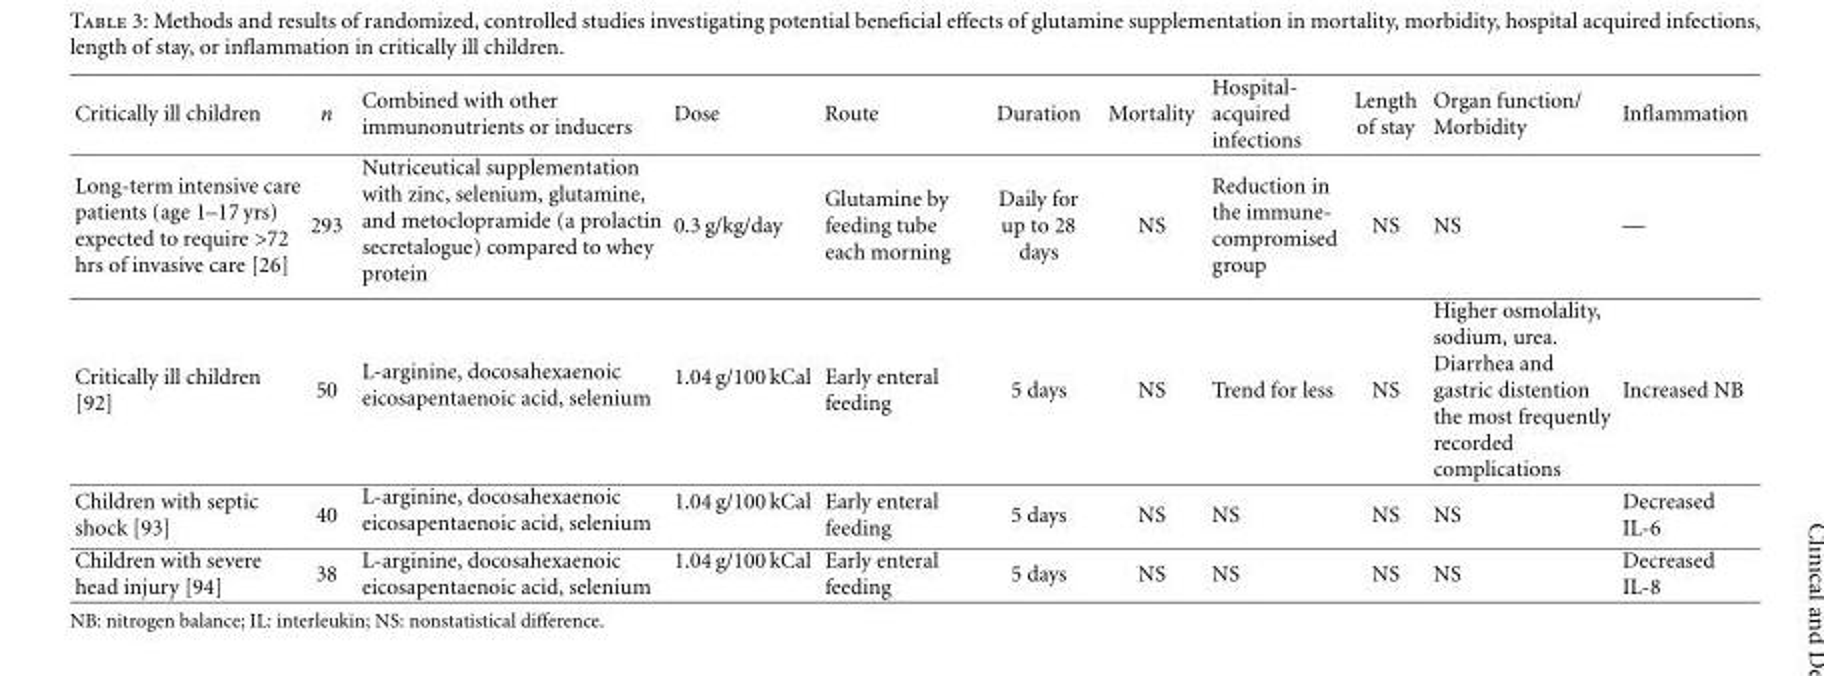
<table><thead><tr><td>Critically ill children</td><td>n</td><td>Combined with other immunonutrients or inducers</td><td>Dose</td><td>Route</td><td>Duration</td><td>Mortality</td><td>Hospital- acquired infections</td><td>Length of stay</td><td>Organ function/ Morbidity</td><td>Inflammation</td></tr></thead><tbody><tr><td>Long-term intensive care patients (age 1–17 yrs) expected to require &gt;72 hrs of invasive care [26]</td><td>293</td><td>Nutriceutical supplementation with zinc, selenium, glutamine, and metoclopramide (a prolactin secretalogue) compared to whey protein</td><td>0.3 g/kg/day</td><td>Glutamine by feeding tube each morning</td><td>Daily for up to 28 days</td><td>NS</td><td>Reduction in the immune- compromised group</td><td>NS</td><td>NS</td><td>—</td></tr><tr><td>Critically ill children [92]</td><td>50</td><td>L-arginine, docosahexaenoic eicosapentaenoic acid, selenium</td><td>1.04 g/100 kCal</td><td>Early enteral feeding</td><td>5 days</td><td>NS</td><td>Trend for less</td><td>NS</td><td>Higher osmolality, sodium, urea. Diarrhea and gastric distention the most frequently recorded complications</td><td>Increased NB</td></tr><tr><td>Children with septic shock [93]</td><td>40</td><td>L-arginine, docosahexaenoic eicosapentaenoic acid, selenium</td><td>1.04 g/100 kCal</td><td>Early enteral feeding</td><td>5 days</td><td>NS</td><td>NS</td><td>NS</td><td>NS</td><td>Decreased IL-6</td></tr><tr><td>Children with severe head injury [94]</td><td>38</td><td>L-arginine, docosahexaenoic eicosapentaenoic acid, selenium</td><td>1.04 g/100 kCal</td><td>Early enteral feeding</td><td>5 days</td><td>NS</td><td>NS</td><td>NS</td><td>NS</td><td>Decreased IL-8</td></tr></tbody></table>